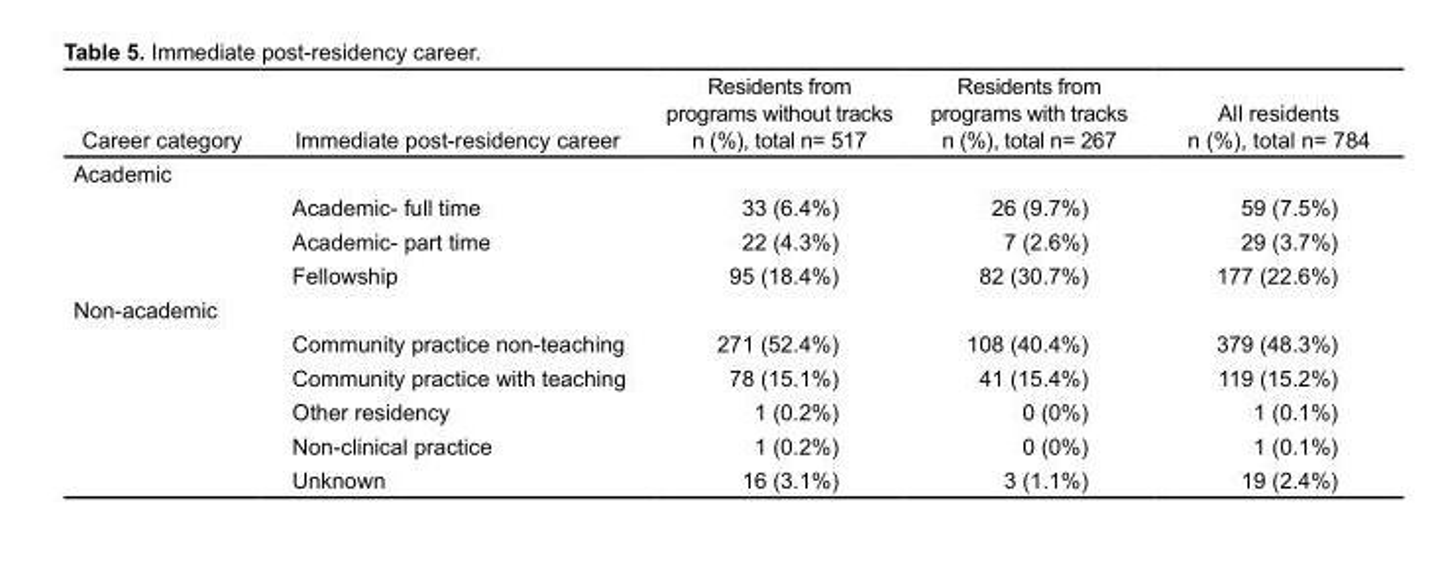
<table><thead><tr><td>Career category</td><td>Immediate post-residency career</td><td>Residents from programs without tracks n (%), total n= 517</td><td>Residents from programs with tracks n (%), total n= 267</td><td>All residents n (%), total n= 784</td></tr></thead><tbody><tr><td colspan="5">Academic</td></tr><tr><td></td><td>Academic- full time</td><td>33 (6.4%)</td><td>26 (9.7%)</td><td>59 (7.5%)</td></tr><tr><td></td><td>Academic- part time</td><td>22 (4.3%)</td><td>7 (2.6%)</td><td>29 (3.7%)</td></tr><tr><td></td><td>Fellowship</td><td>95 (18.4%)</td><td>82 (30.7%)</td><td>177 (22.6%)</td></tr><tr><td colspan="5">Non-academic</td></tr><tr><td></td><td>Community practice non-teaching</td><td>271 (52.4%)</td><td>108 (40.4%)</td><td>379 (48.3%)</td></tr><tr><td></td><td>Community practice with teaching</td><td>78 (15.1%)</td><td>41 (15.4%)</td><td>119 (15.2%)</td></tr><tr><td></td><td>Other residency</td><td>1 (0.2%)</td><td>0 (0%)</td><td>1 (0.1%)</td></tr><tr><td></td><td>Non-clinical practice</td><td>1 (0.2%)</td><td>0 (0%)</td><td>1 (0.1%)</td></tr><tr><td></td><td>Unknown</td><td>16 (3.1%)</td><td>3 (1.1%)</td><td>19 (2.4%)</td></tr></tbody></table>